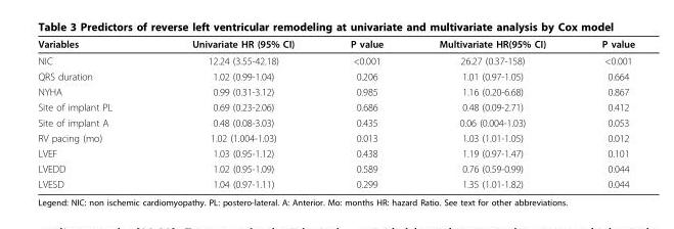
<table><thead><tr><td>Variables</td><td>Univariate HR (95% CI)</td><td>P value</td><td>Multivariate HR(95% CI)</td><td>P value</td></tr></thead><tbody><tr><td>NIC</td><td>12.24 (3.55-42.18)</td><td>&lt;0.001</td><td>26.27 (0.37-158)</td><td>&lt;0.001</td></tr><tr><td>QRS duration</td><td>1.02 (0.99-1.04)</td><td>0.206</td><td>1.01 (0.97-1.05)</td><td>0.664</td></tr><tr><td>NYHA</td><td>0.99 (0.31-3.12)</td><td>0.985</td><td>1.16 (0.20-6.68)</td><td>0.867</td></tr><tr><td>Site of implant PL</td><td>0.69 (0.23-2.06)</td><td>0.686</td><td>0.48 (0.09-2.71)</td><td>0.412</td></tr><tr><td>Site of implant A</td><td>0.48 (0.08-3.03)</td><td>0.435</td><td>0.06 (0.004-1.03)</td><td>0.053</td></tr><tr><td>RV pacing (mo)</td><td>1.02 (1.004-1.03)</td><td>0.013</td><td>1.03 (1.01-1.05)</td><td>0.012</td></tr><tr><td>LVEF</td><td>1.03 (0.95-1.12)</td><td>0.438</td><td>1.19 (0.97-1.47)</td><td>0.101</td></tr><tr><td>LVEDD</td><td>1.02 (0.95-1.09)</td><td>0.589</td><td>0.76 (0.59-0.99)</td><td>0.044</td></tr><tr><td>LVESD</td><td>1.04 (0.97-1.11)</td><td>0.299</td><td>1.35 (1.01-1.82)</td><td>0.044</td></tr></tbody></table>